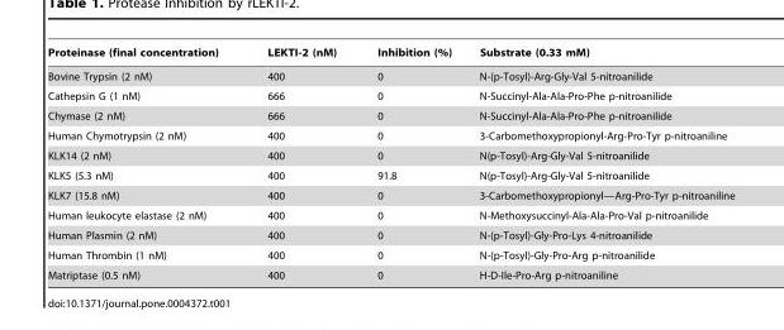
<table><thead><tr><td>Proteinase (final concentration)</td><td>LEKTI-2 (nM)</td><td>Inhibition (%)</td><td>Substrate (0.33 mM)</td></tr></thead><tbody><tr><td>Bovine Trypsin (2 nM)</td><td>400</td><td>0</td><td>N-(p-Tosyl)-Arg-Gly-Val 5-nitroanilide</td></tr><tr><td>Cathepsin G (1 nM)</td><td>666</td><td>0</td><td>N-Succinyl-Ala-Ala-Pro-Phe p-nitroanilide</td></tr><tr><td>Chymase (2 nM)</td><td>666</td><td>0</td><td>N-Succinyl-Ala-Ala-Pro-Phe p-nitroanilide</td></tr><tr><td>Human Chymotrypsin (2 nM)</td><td>400</td><td>0</td><td>3-Carbomethoxypropionyl-Arg-Pro-Tyr p-nitroaniline</td></tr><tr><td>KLK14 (2 nM)</td><td>400</td><td>0</td><td>N(p-Tosyl)-Arg-Gly-Val 5-nitroanilide</td></tr><tr><td>KLK5 (5.3 nM)</td><td>400</td><td>91.8</td><td>N(p-Tosyl)-Arg-Gly-Val 5-nitroanilide</td></tr><tr><td>KLK7 (15.8 nM)</td><td>400</td><td>0</td><td>3-Carbomethoxypropionyl—Arg-Pro-Tyr p-nitroaniline</td></tr><tr><td>Human leukocyte elastase (2 nM)</td><td>400</td><td>0</td><td>N-Methoxysuccinyl-Ala-Ala-Pro-Val p-nitroanilide</td></tr><tr><td>Human Plasmin (2 nM)</td><td>400</td><td>0</td><td>N-(p-Tosyl)-Gly-Pro-Lys 4-nitroanilide</td></tr><tr><td>Human Thrombin (1 nM)</td><td>400</td><td>0</td><td>N-(p-Tosyl)-Gly-Pro-Arg p-nitroanilide</td></tr><tr><td>Matriptase (0.5 nM)</td><td>400</td><td>0</td><td>H-D-Ile-Pro-Arg p-nitroaniline</td></tr></tbody></table>